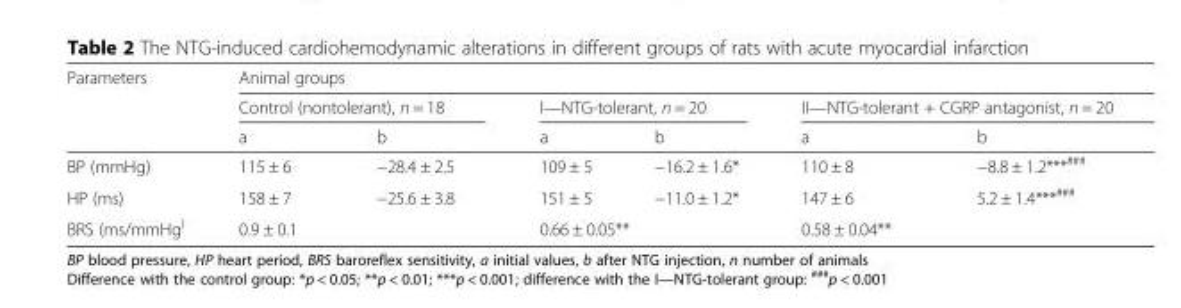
<table><thead><tr><td rowspan="3">Parameters</td><td colspan="6">Animal groups</td></tr><tr><td colspan="2">Control (nontolerant), n = 18</td><td colspan="2">I—NTG-tolerant, n = 20</td><td colspan="2">II—NTG-tolerant + CGRP antagonist, n = 20</td></tr><tr><td>a</td><td>b</td><td>a</td><td>b</td><td>a</td><td>b</td></tr></thead><tbody><tr><td>BP (mmHg)</td><td>115 ± 6</td><td>−28.4 ± 2.5</td><td>109 ± 5</td><td>−16.2 ± 1.6*</td><td>110 ± 8</td><td>−8.8 ± 1.2***<sup>###</sup></td></tr><tr><td>HP (ms)</td><td>158 ± 7</td><td>−25.6 ± 3.8</td><td>151 ± 5</td><td>−11.0 ± 1.2*</td><td>147 ± 6</td><td>5.2 ± 1.4***<sup>###</sup></td></tr><tr><td>BRS (ms/mmHg<sup>)</sup></td><td colspan="2">0.9 ± 0.1</td><td colspan="2">0.66 ± 0.05**</td><td colspan="2">0.58 ± 0.04**</td></tr></tbody></table>